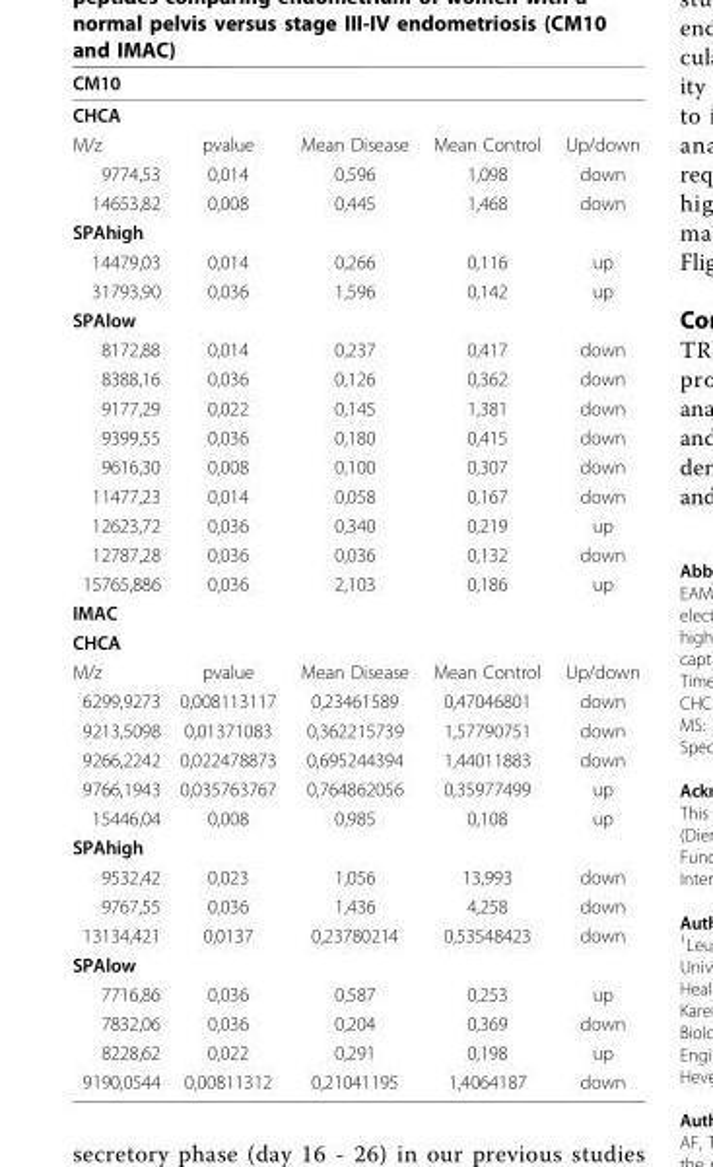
<table><thead><tr><td>CM10</td><td></td><td></td><td></td><td></td></tr></thead><tbody><tr><td colspan="5">CHCA</td></tr><tr><td>M/z</td><td>pvalue</td><td>Mean Disease</td><td>Mean Control</td><td>Up/down</td></tr><tr><td>9774,53</td><td>0,014</td><td>0,596</td><td>1,098</td><td>down</td></tr><tr><td>14653,82</td><td>0,008</td><td>0,445</td><td>1,468</td><td>down</td></tr><tr><td colspan="5">SPAhigh</td></tr><tr><td>14479,03</td><td>0,014</td><td>0,266</td><td>0,116</td><td>up</td></tr><tr><td>31793,90</td><td>0,036</td><td>1,596</td><td>0,142</td><td>up</td></tr><tr><td colspan="5">SPAlow</td></tr><tr><td>8172,88</td><td>0,014</td><td>0,237</td><td>0,417</td><td>down</td></tr><tr><td>8388,16</td><td>0,036</td><td>0,126</td><td>0,362</td><td>down</td></tr><tr><td>9177,29</td><td>0,022</td><td>0,145</td><td>1,381</td><td>down</td></tr><tr><td>9399,55</td><td>0,036</td><td>0,180</td><td>0,415</td><td>down</td></tr><tr><td>9616,30</td><td>0,008</td><td>0,100</td><td>0,307</td><td>down</td></tr><tr><td>11477,23</td><td>0,014</td><td>0,058</td><td>0,167</td><td>down</td></tr><tr><td>12623,72</td><td>0,036</td><td>0,340</td><td>0,219</td><td>up</td></tr><tr><td>12787,28</td><td>0,036</td><td>0,036</td><td>0,132</td><td>down</td></tr><tr><td>15765,886</td><td>0,036</td><td>2,103</td><td>0,186</td><td>up</td></tr><tr><td colspan="5">IMAC</td></tr><tr><td colspan="5">CHCA</td></tr><tr><td>M/z</td><td>pvalue</td><td>Mean Disease</td><td>Mean Control</td><td>Up/down</td></tr><tr><td>6299,9273</td><td>0,008113117</td><td>0,23461589</td><td>0,47046801</td><td>down</td></tr><tr><td>9213,5098</td><td>0,01371083</td><td>0,362215739</td><td>1,57790751</td><td>down</td></tr><tr><td>9266,2242</td><td>0,022478873</td><td>0,695244394</td><td>1,44011883</td><td>down</td></tr><tr><td>9766,1943</td><td>0,035763767</td><td>0,764862056</td><td>0,35977499</td><td>up</td></tr><tr><td>15446,04</td><td>0,008</td><td>0,985</td><td>0,108</td><td>up</td></tr><tr><td colspan="5">SPAhigh</td></tr><tr><td>9532,42</td><td>0,023</td><td>1,056</td><td>13,993</td><td>down</td></tr><tr><td>9767,55</td><td>0,036</td><td>1,436</td><td>4,258</td><td>down</td></tr><tr><td>13134,421</td><td>0,0137</td><td>0,23780214</td><td>0,53548423</td><td>down</td></tr><tr><td colspan="5">SPAlow</td></tr><tr><td>7716,86</td><td>0,036</td><td>0,587</td><td>0,253</td><td>up</td></tr><tr><td>7832,06</td><td>0,036</td><td>0,204</td><td>0,369</td><td>down</td></tr><tr><td>8228,62</td><td>0,022</td><td>0,291</td><td>0,198</td><td>up</td></tr><tr><td>9190,0544</td><td>0,00811312</td><td>0,21041195</td><td>1,4064187</td><td>down</td></tr></tbody></table>